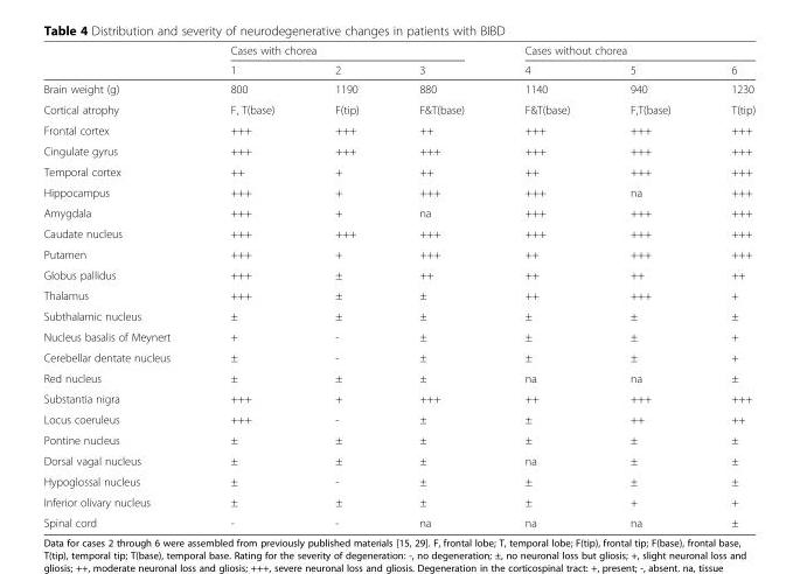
<table><thead><tr><td rowspan="2"></td><td colspan="3">Cases with chorea</td><td colspan="3">Cases without chorea</td></tr><tr><td>1</td><td>2</td><td>3</td><td>4</td><td>5</td><td>6</td></tr></thead><tbody><tr><td>Brain weight (g)</td><td>800</td><td>1190</td><td>880</td><td>1140</td><td>940</td><td>1230</td></tr><tr><td>Cortical atrophy</td><td>F, T(base)</td><td>F(tip)</td><td>F&amp;T(base)</td><td>F&amp;T(base)</td><td>F,T(base)</td><td>T(tip)</td></tr><tr><td>Frontal cortex</td><td>+++</td><td>+++</td><td>++</td><td>+++</td><td>+++</td><td>+++</td></tr><tr><td>Cingulate gyrus</td><td>+++</td><td>+++</td><td>+++</td><td>+++</td><td>+++</td><td>+++</td></tr><tr><td>Temporal cortex</td><td>++</td><td>+</td><td>++</td><td>++</td><td>+++</td><td>+++</td></tr><tr><td>Hippocampus</td><td>+++</td><td>+</td><td>+++</td><td>+++</td><td>na</td><td>+++</td></tr><tr><td>Amygdala</td><td>+++</td><td>+</td><td>na</td><td>+++</td><td>+++</td><td>+++</td></tr><tr><td>Caudate nucleus</td><td>+++</td><td>+++</td><td>+++</td><td>+++</td><td>+++</td><td>+++</td></tr><tr><td>Putamen</td><td>+++</td><td>+</td><td>+++</td><td>++</td><td>+++</td><td>+++</td></tr><tr><td>Globus pallidus</td><td>+++</td><td>±</td><td>++</td><td>++</td><td>++</td><td>++</td></tr><tr><td>Thalamus</td><td>+++</td><td>±</td><td>±</td><td>++</td><td>+++</td><td>+</td></tr><tr><td>Subthalamic nucleus</td><td>±</td><td>±</td><td>±</td><td>±</td><td>±</td><td>±</td></tr><tr><td>Nucleus basalis of Meynert</td><td>+</td><td>-</td><td>±</td><td>±</td><td>±</td><td>+</td></tr><tr><td>Cerebellar dentate nucleus</td><td>±</td><td>-</td><td>±</td><td>±</td><td>±</td><td>+</td></tr><tr><td>Red nucleus</td><td>±</td><td>±</td><td>±</td><td>na</td><td>na</td><td>±</td></tr><tr><td>Substantia nigra</td><td>+++</td><td>+</td><td>+++</td><td>++</td><td>+++</td><td>+++</td></tr><tr><td>Locus coeruleus</td><td>+++</td><td>-</td><td>±</td><td>±</td><td>++</td><td>++</td></tr><tr><td>Pontine nucleus</td><td>±</td><td>±</td><td>±</td><td>±</td><td>±</td><td>±</td></tr><tr><td>Dorsal vagal nucleus</td><td>±</td><td>±</td><td>±</td><td>na</td><td>±</td><td>±</td></tr><tr><td>Hypoglossal nucleus</td><td>±</td><td>-</td><td>±</td><td>±</td><td>±</td><td>±</td></tr><tr><td>Inferior olivary nucleus</td><td>±</td><td>±</td><td>±</td><td>±</td><td>+</td><td>+</td></tr><tr><td>Spinal cord</td><td>-</td><td>-</td><td>na</td><td>na</td><td>na</td><td>±</td></tr></tbody></table>